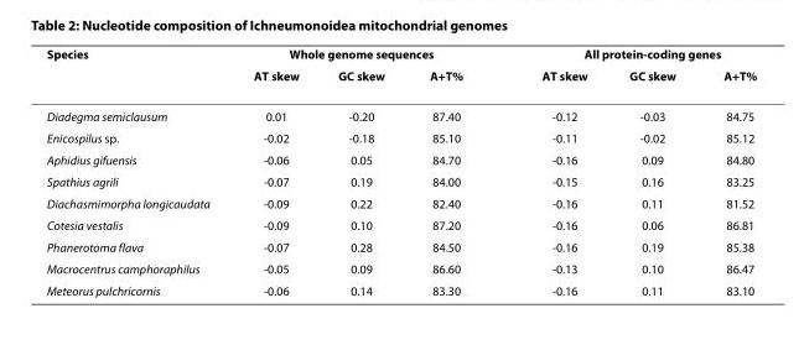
<table><thead><tr><td rowspan="2">Species</td><td colspan="3">Whole genome sequences</td><td colspan="3">All protein-coding genes</td></tr><tr><td>AT skew</td><td>GC skew</td><td>A+T%</td><td>AT skew</td><td>GC skew</td><td>A+T%</td></tr></thead><tbody><tr><td>Diadegma semiclausum</td><td>0.01</td><td>-0.20</td><td>87.40</td><td>-0.12</td><td>-0.03</td><td>84.75</td></tr><tr><td>Enicospilus sp.</td><td>-0.02</td><td>-0.18</td><td>85.10</td><td>-0.11</td><td>-0.02</td><td>85.12</td></tr><tr><td>Aphidius gifuensis</td><td>-0.06</td><td>0.05</td><td>84.70</td><td>-0.16</td><td>0.09</td><td>84.80</td></tr><tr><td>Spathius agrili</td><td>-0.07</td><td>0.19</td><td>84.00</td><td>-0.15</td><td>0.16</td><td>83.25</td></tr><tr><td>Diachasmimorpha longicaudata</td><td>-0.09</td><td>0.22</td><td>82.40</td><td>-0.16</td><td>0.11</td><td>81.52</td></tr><tr><td>Cotesia vestalis</td><td>-0.09</td><td>0.10</td><td>87.20</td><td>-0.16</td><td>0.06</td><td>86.81</td></tr><tr><td>Phanerotoma flava</td><td>-0.07</td><td>0.28</td><td>84.50</td><td>-0.16</td><td>0.19</td><td>85.38</td></tr><tr><td>Macrocentrus camphoraphilus</td><td>-0.05</td><td>0.09</td><td>86.60</td><td>-0.13</td><td>0.10</td><td>86.47</td></tr><tr><td>Meteorus pulchricornis</td><td>-0.06</td><td>0.14</td><td>83.30</td><td>-0.16</td><td>0.11</td><td>83.10</td></tr></tbody></table>